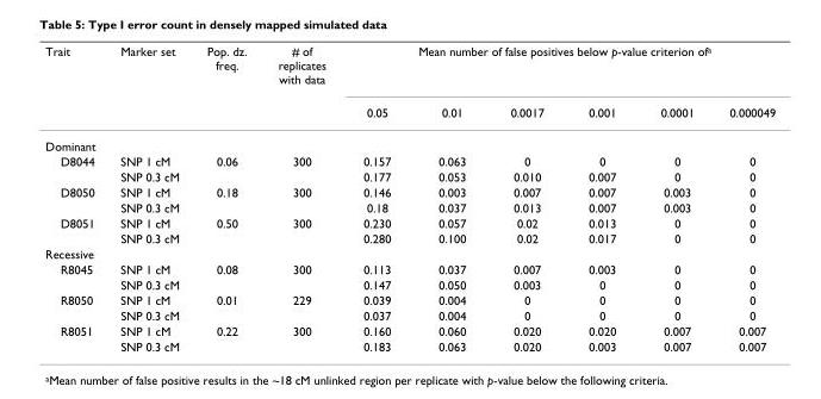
<table><thead><tr><td rowspan="2">Trait</td><td rowspan="2">Marker set</td><td rowspan="2">Pop. dz. freq.</td><td rowspan="2"># of replicates with data</td><td colspan="6">Mean number of false positives below p-value criterion ofa</td></tr><tr><td>0.05</td><td>0.01</td><td>0.0017</td><td>0.001</td><td>0.0001</td><td>0.000049</td></tr></thead><tbody><tr><td colspan="10">Dominant</td></tr><tr><td rowspan="2">D8044</td><td>SNP 1 cM</td><td>0.06</td><td>300</td><td>0.157</td><td>0.063</td><td>0</td><td>0</td><td>0</td><td>0</td></tr><tr><td>SNP 0.3 cM</td><td></td><td></td><td>0.177</td><td>0.053</td><td>0.010</td><td>0.007</td><td>0</td><td>0</td></tr><tr><td rowspan="2">D8050</td><td>SNP 1 cM</td><td>0.18</td><td>300</td><td>0.146</td><td>0.003</td><td>0.007</td><td>0.007</td><td>0.003</td><td>0</td></tr><tr><td>SNP 0.3 cM</td><td></td><td></td><td>0.18</td><td>0.037</td><td>0.013</td><td>0.007</td><td>0.003</td><td>0</td></tr><tr><td rowspan="2">D8051</td><td>SNP 1 cM</td><td>0.50</td><td>300</td><td>0.230</td><td>0.057</td><td>0.02</td><td>0.013</td><td>0</td><td>0</td></tr><tr><td>SNP 0.3 cM</td><td></td><td></td><td>0.280</td><td>0.100</td><td>0.02</td><td>0.017</td><td>0</td><td>0</td></tr><tr><td colspan="10">Recessive</td></tr><tr><td rowspan="2">R8045</td><td>SNP 1 cM</td><td>0.08</td><td>300</td><td>0.113</td><td>0.037</td><td>0.007</td><td>0.003</td><td>0</td><td>0</td></tr><tr><td>SNP 0.3 cM</td><td></td><td></td><td>0.147</td><td>0.050</td><td>0.003</td><td>0</td><td>0</td><td>0</td></tr><tr><td rowspan="2">R8050</td><td>SNP 1 cM</td><td>0.01</td><td>229</td><td>0.039</td><td>0.004</td><td>0</td><td>0</td><td>0</td><td>0</td></tr><tr><td>SNP 0.3 cM</td><td></td><td></td><td>0.037</td><td>0.004</td><td>0</td><td>0</td><td>0</td><td>0</td></tr><tr><td rowspan="2">R8051</td><td>SNP 1 cM</td><td>0.22</td><td>300</td><td>0.160</td><td>0.060</td><td>0.020</td><td>0.020</td><td>0.007</td><td>0.007</td></tr><tr><td>SNP 0.3 cM</td><td></td><td></td><td>0.183</td><td>0.063</td><td>0.020</td><td>0.003</td><td>0.007</td><td>0.007</td></tr></tbody></table>